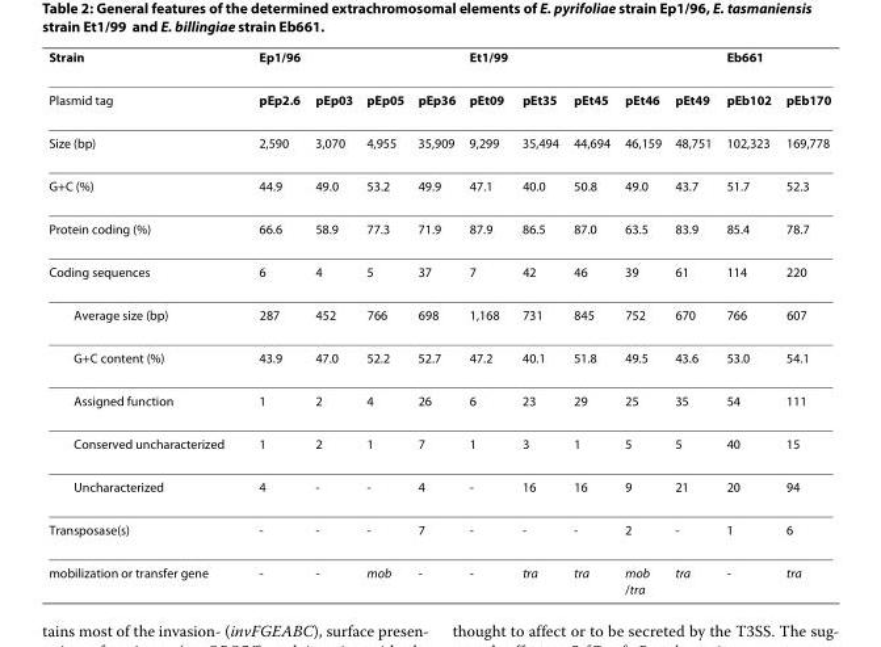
<table><thead><tr><td>Strain</td><td>Ep1/96</td><td></td><td></td><td></td><td>Et1/99</td><td></td><td></td><td></td><td></td><td>Eb661</td><td></td></tr></thead><tbody><tr><td>Plasmid tag</td><td>pEp2.6</td><td>pEp03</td><td>pEp05</td><td>pEp36</td><td>pEt09</td><td>pEt35</td><td>pEt45</td><td>pEt46</td><td>pEt49</td><td>pEb102</td><td>pEb170</td></tr><tr><td>Size (bp)</td><td>2,590</td><td>3,070</td><td>4,955</td><td>35,909</td><td>9,299</td><td>35,494</td><td>44,694</td><td>46,159</td><td>48,751</td><td>102,323</td><td>169,778</td></tr><tr><td>G+C (%)</td><td>44.9</td><td>49.0</td><td>53.2</td><td>49.9</td><td>47.1</td><td>40.0</td><td>50.8</td><td>49.0</td><td>43.7</td><td>51.7</td><td>52.3</td></tr><tr><td>Protein coding (%)</td><td>66.6</td><td>58.9</td><td>77.3</td><td>71.9</td><td>87.9</td><td>86.5</td><td>87.0</td><td>63.5</td><td>83.9</td><td>85.4</td><td>78.7</td></tr><tr><td>Coding sequences</td><td>6</td><td>4</td><td>5</td><td>37</td><td>7</td><td>42</td><td>46</td><td>39</td><td>61</td><td>114</td><td>220</td></tr><tr><td>Average size (bp)</td><td>287</td><td>452</td><td>766</td><td>698</td><td>1,168</td><td>731</td><td>845</td><td>752</td><td>670</td><td>766</td><td>607</td></tr><tr><td>G+C content (%)</td><td>43.9</td><td>47.0</td><td>52.2</td><td>52.7</td><td>47.2</td><td>40.1</td><td>51.8</td><td>49.5</td><td>43.6</td><td>53.0</td><td>54.1</td></tr><tr><td>Assigned function</td><td>1</td><td>2</td><td>4</td><td>26</td><td>6</td><td>23</td><td>29</td><td>25</td><td>35</td><td>54</td><td>111</td></tr><tr><td>Conserved uncharacterized</td><td>1</td><td>2</td><td>1</td><td>7</td><td>1</td><td>3</td><td>1</td><td>5</td><td>5</td><td>40</td><td>15</td></tr><tr><td>Uncharacterized</td><td>4</td><td>-</td><td>-</td><td>4</td><td>-</td><td>16</td><td>16</td><td>9</td><td>21</td><td>20</td><td>94</td></tr><tr><td>Transposase(s)</td><td>-</td><td>-</td><td>-</td><td>7</td><td>-</td><td>-</td><td>-</td><td>2</td><td>-</td><td>1</td><td>6</td></tr><tr><td>mobilization or transfer gene</td><td>-</td><td>-</td><td>mob</td><td>-</td><td>-</td><td>tra</td><td>tra</td><td>mob /tra</td><td>tra</td><td>-</td><td>tra</td></tr></tbody></table>